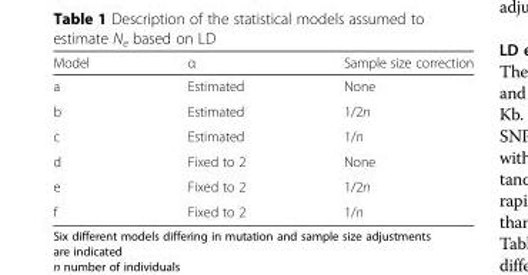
<table><thead><tr><td>Model</td><td>α</td><td>Sample size correction</td></tr></thead><tbody><tr><td>a</td><td>Estimated</td><td>None</td></tr><tr><td>b</td><td>Estimated</td><td>1/2n</td></tr><tr><td>c</td><td>Estimated</td><td>1/n</td></tr><tr><td>d</td><td>Fixed to 2</td><td>None</td></tr><tr><td>e</td><td>Fixed to 2</td><td>1/2n</td></tr><tr><td>f</td><td>Fixed to 2</td><td>1/n</td></tr></tbody></table>